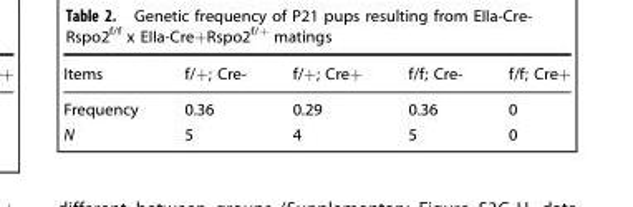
<table><thead><tr><td>Items</td><td>f/+; Cre-</td><td>f/+; Cre+</td><td>f/f; Cre-</td><td>f/f; Cre+</td></tr></thead><tbody><tr><td>Frequency</td><td>0.36</td><td>0.29</td><td>0.36</td><td>0</td></tr><tr><td>N</td><td>5</td><td>4</td><td>5</td><td>0</td></tr></tbody></table>